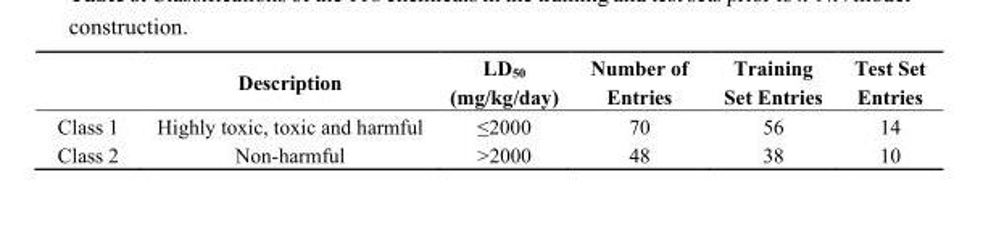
<table><thead><tr><td></td><td>Description</td><td>LD<sub>50</sub> (mg/kg/day)</td><td>Number of Entries</td><td>Training Set Entries</td><td>Test Set Entries</td></tr></thead><tbody><tr><td>Class 1</td><td>Highly toxic, toxic and harmful</td><td>≤2000</td><td>70</td><td>56</td><td>14</td></tr><tr><td>Class 2</td><td>Non-harmful</td><td>&gt;2000</td><td>48</td><td>38</td><td>10</td></tr></tbody></table>